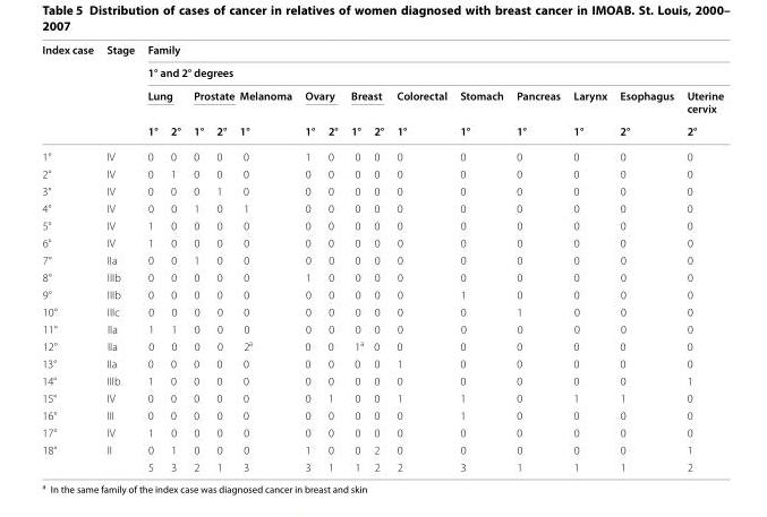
<table><thead><tr><td rowspan="4">Index case</td><td rowspan="4">Stage</td><td rowspan="2" colspan="15">Family 1° and 2° degrees</td></tr><tr></tr><tr><td colspan="2">Lung</td><td colspan="2">Prostate</td><td rowspan="2">Melanoma 1°</td><td colspan="2">Ovary</td><td colspan="2">Breast</td><td rowspan="2">Colorectal 1°</td><td rowspan="2">Stomach 1°</td><td rowspan="2">Pancreas 1°</td><td rowspan="2">Larynx 1°</td><td rowspan="2">Esophagus 2°</td><td rowspan="2">Uterine cervix 2°</td></tr><tr><td>1°</td><td>2°</td><td>1°</td><td>2°</td><td>1°</td><td>2°</td><td>1°</td><td>2°</td></tr></thead><tbody><tr><td>1°</td><td>IV</td><td>0</td><td>0</td><td>0</td><td>0</td><td>0</td><td>1</td><td>0</td><td>0</td><td>0</td><td>0</td><td>0</td><td>0</td><td>0</td><td>0</td><td>0</td></tr><tr><td>2°</td><td>IV</td><td>0</td><td>1</td><td>0</td><td>0</td><td>0</td><td>0</td><td>0</td><td>0</td><td>0</td><td>0</td><td>0</td><td>0</td><td>0</td><td>0</td><td>0</td></tr><tr><td>3°</td><td>IV</td><td>0</td><td>0</td><td>0</td><td>1</td><td>0</td><td>0</td><td>0</td><td>0</td><td>0</td><td>0</td><td>0</td><td>0</td><td>0</td><td>0</td><td>0</td></tr><tr><td>4°</td><td>IV</td><td>0</td><td>0</td><td>1</td><td>0</td><td>1</td><td>0</td><td>0</td><td>0</td><td>0</td><td>0</td><td>0</td><td>0</td><td>0</td><td>0</td><td>0</td></tr><tr><td>5°</td><td>IV</td><td>1</td><td>0</td><td>0</td><td>0</td><td>0</td><td>0</td><td>0</td><td>0</td><td>0</td><td>0</td><td>0</td><td>0</td><td>0</td><td>0</td><td>0</td></tr><tr><td>6°</td><td>IV</td><td>1</td><td>0</td><td>0</td><td>0</td><td>0</td><td>0</td><td>0</td><td>0</td><td>0</td><td>0</td><td>0</td><td>0</td><td>0</td><td>0</td><td>0</td></tr><tr><td>7°</td><td>IIa</td><td>0</td><td>0</td><td>1</td><td>0</td><td>0</td><td>0</td><td>0</td><td>0</td><td>0</td><td>0</td><td>0</td><td>0</td><td>0</td><td>0</td><td>0</td></tr><tr><td>8°</td><td>IIIb</td><td>0</td><td>0</td><td>0</td><td>0</td><td>0</td><td>1</td><td>0</td><td>0</td><td>0</td><td>0</td><td>0</td><td>0</td><td>0</td><td>0</td><td>0</td></tr><tr><td>9°</td><td>IIIb</td><td>0</td><td>0</td><td>0</td><td>0</td><td>0</td><td>0</td><td>0</td><td>0</td><td>0</td><td>0</td><td>1</td><td>0</td><td>0</td><td>0</td><td>0</td></tr><tr><td>10°</td><td>IIIc</td><td>0</td><td>0</td><td>0</td><td>0</td><td>0</td><td>0</td><td>0</td><td>0</td><td>0</td><td>0</td><td>0</td><td>1</td><td>0</td><td>0</td><td>0</td></tr><tr><td>11°</td><td>IIa</td><td>1</td><td>1</td><td>0</td><td>0</td><td>0</td><td>0</td><td>0</td><td>0</td><td>0</td><td>0</td><td>0</td><td>0</td><td>0</td><td>0</td><td>0</td></tr><tr><td>12°</td><td>IIa</td><td>0</td><td>0</td><td>0</td><td>0</td><td>2<sup>a</sup></td><td>0</td><td>0</td><td>1<sup>a</sup></td><td>0</td><td>0</td><td>0</td><td>0</td><td>0</td><td>0</td><td>0</td></tr><tr><td>13°</td><td>IIa</td><td>0</td><td>0</td><td>0</td><td>0</td><td>0</td><td>0</td><td>0</td><td>0</td><td>0</td><td>1</td><td>0</td><td>0</td><td>0</td><td>0</td><td>0</td></tr><tr><td>14°</td><td>IIIb</td><td>1</td><td>0</td><td>0</td><td>0</td><td>0</td><td>0</td><td>0</td><td>0</td><td>0</td><td>0</td><td>0</td><td>0</td><td>0</td><td>0</td><td>1</td></tr><tr><td>15°</td><td>IV</td><td>0</td><td>0</td><td>0</td><td>0</td><td>0</td><td>0</td><td>1</td><td>0</td><td>0</td><td>1</td><td>1</td><td>0</td><td>1</td><td>1</td><td>0</td></tr><tr><td>16°</td><td>III</td><td>0</td><td>0</td><td>0</td><td>0</td><td>0</td><td>0</td><td>0</td><td>0</td><td>0</td><td>0</td><td>1</td><td>0</td><td>0</td><td>0</td><td>0</td></tr><tr><td>17°</td><td>IV</td><td>1</td><td>0</td><td>0</td><td>0</td><td>0</td><td>0</td><td>0</td><td>0</td><td>0</td><td>0</td><td>0</td><td>0</td><td>0</td><td>0</td><td>0</td></tr><tr><td rowspan="2">18°</td><td>II</td><td>0</td><td>1</td><td>0</td><td>0</td><td>0</td><td>1</td><td>0</td><td>0</td><td>2</td><td>0</td><td>0</td><td>0</td><td>0</td><td>0</td><td>1</td></tr><tr><td></td><td>5</td><td>3</td><td>2</td><td>1</td><td>3</td><td>3</td><td>1</td><td>1</td><td>2</td><td>2</td><td>3</td><td>1</td><td>1</td><td>1</td><td>2</td></tr></tbody></table>